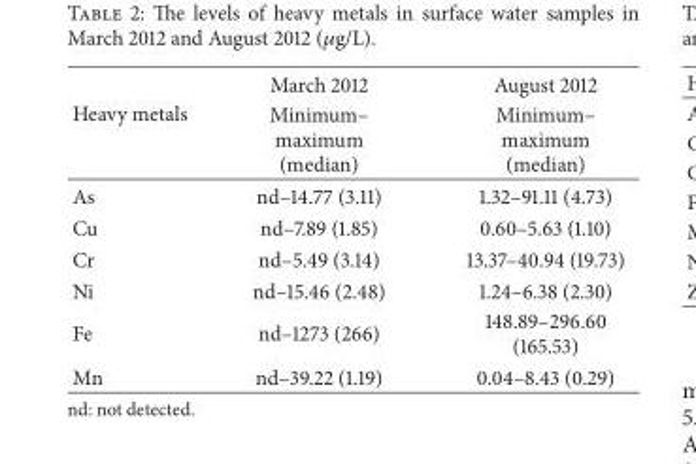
<table><thead><tr><td rowspan="2">Heavy metals</td><td rowspan="2">March 2012 Minimum– maximum (median)</td><td rowspan="2">August 2012 Minimum– maximum (median)</td></tr><tr></tr></thead><tbody><tr><td>As</td><td>nd–14.77 (3.11)</td><td>1.32–91.11 (4.73)</td></tr><tr><td>Cu</td><td>nd–7.89 (1.85)</td><td>0.60–5.63 (1.10)</td></tr><tr><td>Cr</td><td>nd–5.49 (3.14)</td><td>13.37–40.94 (19.73)</td></tr><tr><td>Ni</td><td>nd–15.46 (2.48)</td><td>1.24–6.38 (2.30)</td></tr><tr><td>Fe</td><td>nd–1273 (266)</td><td>148.89–296.60 (165.53)</td></tr><tr><td>Mn</td><td>nd–39.22 (1.19)</td><td>0.04–8.43 (0.29)</td></tr></tbody></table>